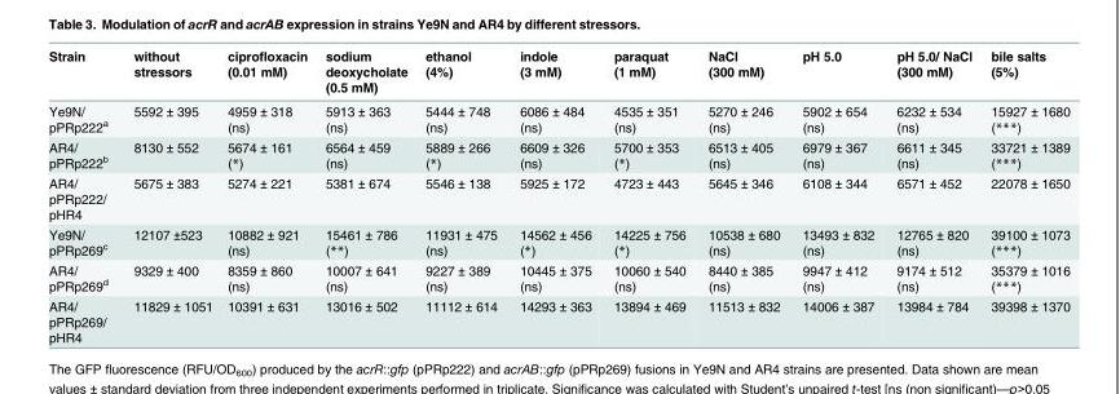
<table><thead><tr><td rowspan="3">Strain</td><td rowspan="3">without stressors</td><td rowspan="3">ciprofloxacin (0.01 mM)</td><td rowspan="3">sodium deoxycholate (0.5 mM)</td><td rowspan="3">ethanol (4%)</td><td rowspan="3">indole (3 mM)</td><td rowspan="3">paraquat (1 mM)</td><td rowspan="3">NaCl (300 mM)</td><td rowspan="3">pH 5.0</td><td rowspan="3">pH 5.0/ NaCl (300 mM)</td><td rowspan="3">bile salts (5%)</td></tr><tr></tr><tr></tr></thead><tbody><tr><td>Ye9N/ pPRp222<sup>a</sup></td><td>5592 ± 395</td><td>4959 ± 318 (ns)</td><td>5913 ± 363 (ns)</td><td>5444 ± 748 (ns)</td><td>6086 ± 484 (ns)</td><td>4535 ± 351 (ns)</td><td>5270 ± 246 (ns)</td><td>5902 ± 654 (ns)</td><td>6232 ± 534 (ns)</td><td>15927 ± 1680 (***)</td></tr><tr><td>AR4/ pPRp222<sup>b</sup></td><td>8130 ± 552</td><td>5674 ± 161 (*)</td><td>6564 ± 459 (ns)</td><td>5889 ± 266 (*)</td><td>6609 ± 326 (ns)</td><td>5700 ± 353 (*)</td><td>6513 ± 405 (ns)</td><td>6979 ± 367 (ns)</td><td>6611 ± 345 (ns)</td><td>33721 ± 1389 (***)</td></tr><tr><td>AR4/ pPRp222/ pHR4</td><td>5675 ± 383</td><td>5274 ± 221</td><td>5381 ± 674</td><td>5546 ± 138</td><td>5925 ± 172</td><td>4723 ± 443</td><td>5645 ± 346</td><td>6108 ± 344</td><td>6571 ± 452</td><td>22078 ± 1650</td></tr><tr><td>Ye9N/ pPRp269<sup>c</sup></td><td>12107 ±523</td><td>10882 ± 921 (ns)</td><td>15461 ± 786 (**)</td><td>11931 ± 475 (ns)</td><td>14562 ± 456 (*)</td><td>14225 ± 756 (*)</td><td>10538 ± 680 (ns)</td><td>13493 ± 832 (ns)</td><td>12765 ± 820 (ns)</td><td>39100 ± 1073 (***)</td></tr><tr><td>AR4/ pPRp269<sup>d</sup></td><td>9329 ± 400</td><td>8359 ± 860 (ns)</td><td>10007 ± 641 (ns)</td><td>9227 ± 389 (ns)</td><td>10445 ± 375 (ns)</td><td>10060 ± 540 (ns)</td><td>8440 ± 385 (ns)</td><td>9947 ± 412 (ns)</td><td>9174 ± 512 (ns)</td><td>35379 ± 1016 (***)</td></tr><tr><td>AR4/ pPRp269/ pHR4</td><td>11829 ± 1051</td><td>10391 ± 631</td><td>13016 ± 502</td><td>11112 ± 614</td><td>14293 ± 363</td><td>13894 ± 469</td><td>11513 ± 832</td><td>14006 ± 387</td><td>13984 ± 784</td><td>39398 ± 1370</td></tr></tbody></table>